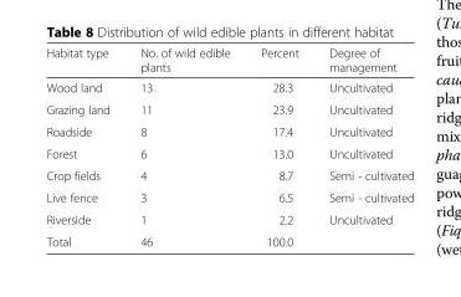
<table><thead><tr><td>Habitat type</td><td>No. of wild edible plants</td><td>Percent</td><td>Degree of management</td></tr></thead><tbody><tr><td>Wood land</td><td>13</td><td>28.3</td><td>Uncultivated</td></tr><tr><td>Grazing land</td><td>11</td><td>23.9</td><td>Uncultivated</td></tr><tr><td>Roadside</td><td>8</td><td>17.4</td><td>Uncultivated</td></tr><tr><td>Forest</td><td>6</td><td>13.0</td><td>Uncultivated</td></tr><tr><td>Crop fields</td><td>4</td><td>8.7</td><td>Semi - cultivated</td></tr><tr><td>Live fence</td><td>3</td><td>6.5</td><td>Semi - cultivated</td></tr><tr><td>Riverside</td><td>1</td><td>2.2</td><td>Uncultivated</td></tr><tr><td>Total</td><td>46</td><td>100.0</td><td></td></tr></tbody></table>